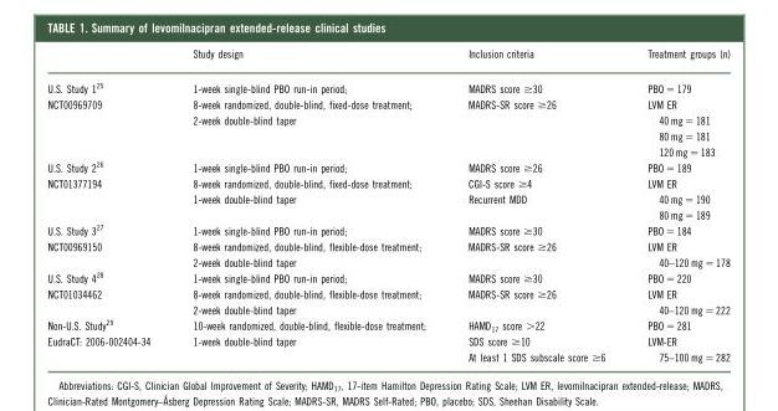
<table><thead><tr><td></td><td>Study design</td><td>Inclusion criteria</td><td>Treatment groups (n)</td></tr></thead><tbody><tr><td>U.S. Study 1<sup>25</sup></td><td>1-week single-blind PBO run-in period;</td><td>MADRS score ≥30</td><td>PBO = 179</td></tr><tr><td rowspan="4">NCT00969709</td><td>8-week randomized, double-blind, fixed-dose treatment;</td><td>MADRS-SR score ≥26</td><td>LVM ER</td></tr><tr><td>2-week double-blind taper</td><td></td><td>40 mg = 181</td></tr><tr><td></td><td></td><td>80 mg = 181</td></tr><tr><td></td><td></td><td>120 mg = 183</td></tr><tr><td>U.S. Study 2<sup>26</sup></td><td>1-week single-blind PBO run-in period;</td><td>MADRS score ≥26</td><td>PBO = 189</td></tr><tr><td rowspan="3">NCT01377194</td><td>8-week randomized, double-blind, fixed-dose treatment;</td><td>CGI-S score ≥4</td><td>LVM ER</td></tr><tr><td>1-week double-blind taper</td><td>Recurrent MDD</td><td>40 mg = 190</td></tr><tr><td></td><td></td><td>80 mg = 189</td></tr><tr><td>U.S. Study 3<sup>27</sup></td><td>1-week single-blind PBO run-in period;</td><td>MADRS score ≥30</td><td>PBO = 184</td></tr><tr><td rowspan="2">NCT00969150</td><td>8-week randomized, double-blind, flexible-dose treatment;</td><td>MADRS-SR score ≥26</td><td>LVM ER</td></tr><tr><td>2-week double-blind taper</td><td></td><td>40–120 mg = 178</td></tr><tr><td>U.S. Study 4<sup>28</sup></td><td>1-week single-blind PBO run-in period;</td><td>MADRS score ≥30</td><td>PBO = 220</td></tr><tr><td rowspan="2">NCT01034462</td><td>8-week randomized, double-blind, flexible-dose treatment;</td><td>MADRS-SR score ≥26</td><td>LVM ER</td></tr><tr><td>2-week double-blind taper</td><td></td><td>40–120 mg = 222</td></tr><tr><td>Non-U.S. Study<sup>29</sup></td><td>10-week randomized, double-blind, flexible-dose treatment;</td><td>HAMD<sub>17</sub> score &gt;22</td><td>PBO = 281</td></tr><tr><td rowspan="2">EudraCT: 2006-002404-34</td><td>1-week double-blind taper</td><td>SDS score ≥10</td><td>LVM-ER</td></tr><tr><td></td><td>At least 1 SDS subscale score ≥6</td><td>75–100 mg = 282</td></tr></tbody></table>